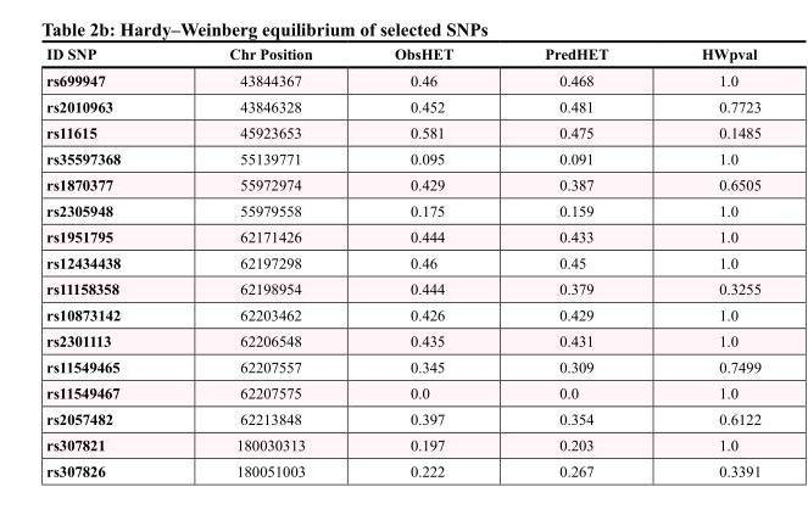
<table><thead><tr><td>ID SNP</td><td>Chr Position</td><td>ObsHET</td><td>PredHET</td><td>HWpval</td></tr></thead><tbody><tr><td>rs699947</td><td>43844367</td><td>0.46</td><td>0.468</td><td>1.0</td></tr><tr><td>rs2010963</td><td>43846328</td><td>0.452</td><td>0.481</td><td>0.7723</td></tr><tr><td>rs11615</td><td>45923653</td><td>0.581</td><td>0.475</td><td>0.1485</td></tr><tr><td>rs35597368</td><td>55139771</td><td>0.095</td><td>0.091</td><td>1.0</td></tr><tr><td>rs1870377</td><td>55972974</td><td>0.429</td><td>0.387</td><td>0.6505</td></tr><tr><td>rs2305948</td><td>55979558</td><td>0.175</td><td>0.159</td><td>1.0</td></tr><tr><td>rs1951795</td><td>62171426</td><td>0.444</td><td>0.433</td><td>1.0</td></tr><tr><td>rs12434438</td><td>62197298</td><td>0.46</td><td>0.45</td><td>1.0</td></tr><tr><td>rs11158358</td><td>62198954</td><td>0.444</td><td>0.379</td><td>0.3255</td></tr><tr><td>rs10873142</td><td>62203462</td><td>0.426</td><td>0.429</td><td>1.0</td></tr><tr><td>rs2301113</td><td>62206548</td><td>0.435</td><td>0.431</td><td>1.0</td></tr><tr><td>rs11549465</td><td>62207557</td><td>0.345</td><td>0.309</td><td>0.7499</td></tr><tr><td>rs11549467</td><td>62207575</td><td>0.0</td><td>0.0</td><td>1.0</td></tr><tr><td>rs2057482</td><td>62213848</td><td>0.397</td><td>0.354</td><td>0.6122</td></tr><tr><td>rs307821</td><td>180030313</td><td>0.197</td><td>0.203</td><td>1.0</td></tr><tr><td>rs307826</td><td>180051003</td><td>0.222</td><td>0.267</td><td>0.3391</td></tr></tbody></table>